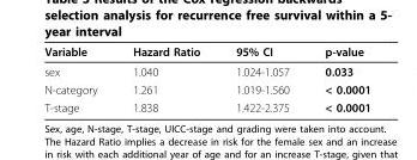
<table><thead><tr><td>Variable</td><td>Hazard Ratio</td><td>95% CI</td><td>p-value</td></tr></thead><tbody><tr><td>sex</td><td>1.040</td><td>1.024-1.057</td><td>0.033</td></tr><tr><td>N-category</td><td>1.261</td><td>1.019-1.560</td><td>&lt; 0.0001</td></tr><tr><td>T-stage</td><td>1.838</td><td>1.422-2.375</td><td>&lt; 0.0001</td></tr></tbody></table>